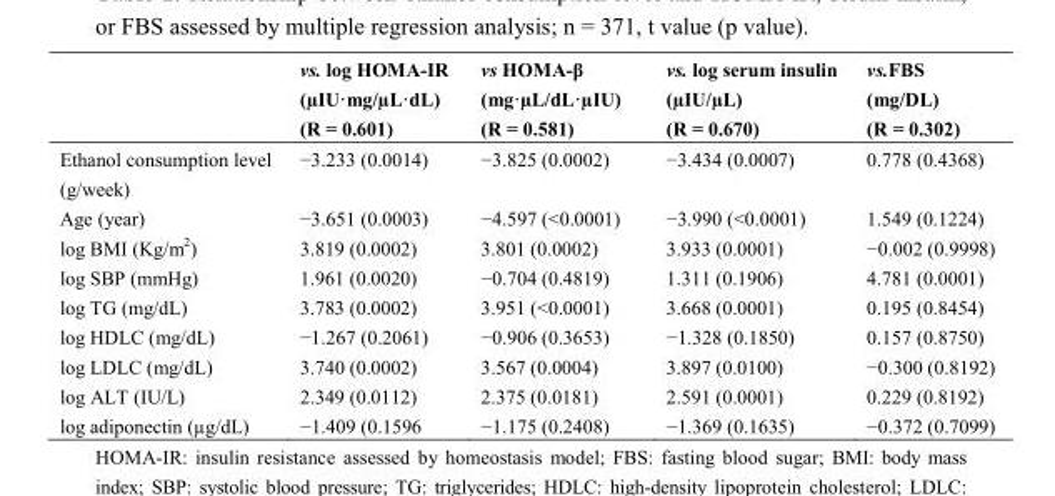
<table><thead><tr><td></td><td>vs. log HOMA-IR (µIU·mg/µL·dL) (R = 0.601)</td><td>vs HOMA-β (mg·µL/dL·µIU) (R = 0.581)</td><td>vs. log serum insulin (µIU/µL) (R = 0.670)</td><td>vs.FBS (mg/DL) (R = 0.302)</td></tr></thead><tbody><tr><td>Ethanol consumption level (g/week)</td><td>−3.233 (0.0014)</td><td>−3.825 (0.0002)</td><td>−3.434 (0.0007)</td><td>0.778 (0.4368)</td></tr><tr><td>Age (year)</td><td>−3.651 (0.0003)</td><td>−4.597 (&lt;0.0001)</td><td>−3.990 (&lt;0.0001)</td><td>1.549 (0.1224)</td></tr><tr><td>log BMI (Kg/m<sup>2</sup>)</td><td>3.819 (0.0002)</td><td>3.801 (0.0002)</td><td>3.933 (0.0001)</td><td>−0.002 (0.9998)</td></tr><tr><td>log SBP (mmHg)</td><td>1.961 (0.0020)</td><td>−0.704 (0.4819)</td><td>1.311 (0.1906)</td><td>4.781 (0.0001)</td></tr><tr><td>log TG (mg/dL)</td><td>3.783 (0.0002)</td><td>3.951 (&lt;0.0001)</td><td>3.668 (0.0001)</td><td>0.195 (0.8454)</td></tr><tr><td>log HDLC (mg/dL)</td><td>−1.267 (0.2061)</td><td>−0.906 (0.3653)</td><td>−1.328 (0.1850)</td><td>0.157 (0.8750)</td></tr><tr><td>log LDLC (mg/dL)</td><td>3.740 (0.0002)</td><td>3.567 (0.0004)</td><td>3.897 (0.0100)</td><td>−0.300 (0.8192)</td></tr><tr><td>log ALT (IU/L)</td><td>2.349 (0.0112)</td><td>2.375 (0.0181)</td><td>2.591 (0.0001)</td><td>0.229 (0.8192)</td></tr><tr><td>log adiponectin (µg/dL)</td><td>−1.409 (0.1596</td><td>−1.175 (0.2408)</td><td>−1.369 (0.1635)</td><td>−0.372 (0.7099)</td></tr></tbody></table>